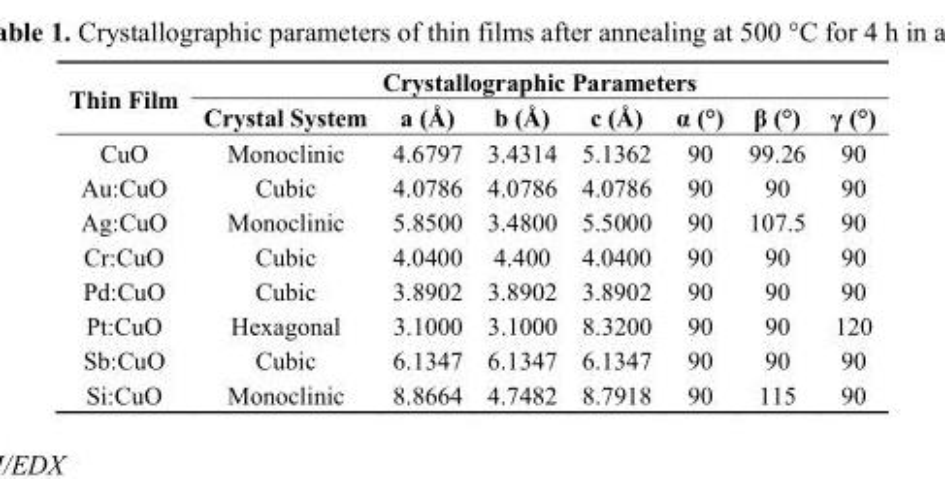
<table><thead><tr><td rowspan="2">Thin Film</td><td colspan="7">Crystallographic Parameters</td></tr><tr><td>Crystal System</td><td>a (Å)</td><td>b (Å)</td><td>c (Å)</td><td>α (°)</td><td>β (°)</td><td>γ (°)</td></tr></thead><tbody><tr><td>CuO</td><td>Monoclinic</td><td>4.6797</td><td>3.4314</td><td>5.1362</td><td>90</td><td>99.26</td><td>90</td></tr><tr><td>Au:CuO</td><td>Cubic</td><td>4.0786</td><td>4.0786</td><td>4.0786</td><td>90</td><td>90</td><td>90</td></tr><tr><td>Ag:CuO</td><td>Monoclinic</td><td>5.8500</td><td>3.4800</td><td>5.5000</td><td>90</td><td>107.5</td><td>90</td></tr><tr><td>Cr:CuO</td><td>Cubic</td><td>4.0400</td><td>4.400</td><td>4.0400</td><td>90</td><td>90</td><td>90</td></tr><tr><td>Pd:CuO</td><td>Cubic</td><td>3.8902</td><td>3.8902</td><td>3.8902</td><td>90</td><td>90</td><td>90</td></tr><tr><td>Pt:CuO</td><td>Hexagonal</td><td>3.1000</td><td>3.1000</td><td>8.3200</td><td>90</td><td>90</td><td>120</td></tr><tr><td>Sb:CuO</td><td>Cubic</td><td>6.1347</td><td>6.1347</td><td>6.1347</td><td>90</td><td>90</td><td>90</td></tr><tr><td>Si:CuO</td><td>Monoclinic</td><td>8.8664</td><td>4.7482</td><td>8.7918</td><td>90</td><td>115</td><td>90</td></tr></tbody></table>